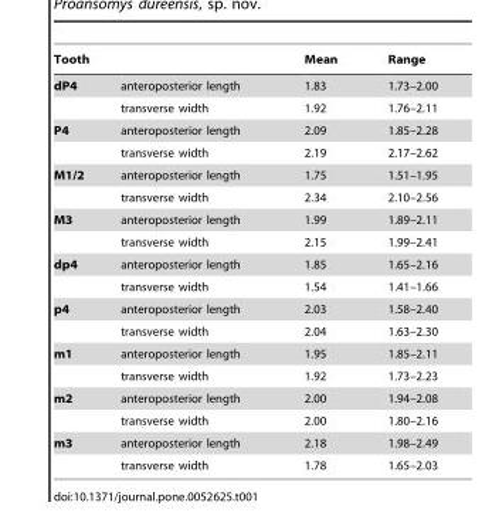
<table><thead><tr><td>Tooth</td><td></td><td>Mean</td><td>Range</td></tr></thead><tbody><tr><td rowspan="2">dP4</td><td>anteroposterior length</td><td>1.83</td><td>1.73–2.00</td></tr><tr><td>transverse width</td><td>1.92</td><td>1.76–2.11</td></tr><tr><td rowspan="2">P4</td><td>anteroposterior length</td><td>2.09</td><td>1.85–2.28</td></tr><tr><td>transverse width</td><td>2.19</td><td>2.17–2.62</td></tr><tr><td rowspan="2">M1/2</td><td>anteroposterior length</td><td>1.75</td><td>1.51–1.95</td></tr><tr><td>transverse width</td><td>2.34</td><td>2.10–2.56</td></tr><tr><td rowspan="2">M3</td><td>anteroposterior length</td><td>1.99</td><td>1.89–2.11</td></tr><tr><td>transverse width</td><td>2.15</td><td>1.99–2.41</td></tr><tr><td rowspan="2">dp4</td><td>anteroposterior length</td><td>1.85</td><td>1.65–2.16</td></tr><tr><td>transverse width</td><td>1.54</td><td>1.41–1.66</td></tr><tr><td rowspan="2">p4</td><td>anteroposterior length</td><td>2.03</td><td>1.58–2.40</td></tr><tr><td>transverse width</td><td>2.04</td><td>1.63–2.30</td></tr><tr><td rowspan="2">m1</td><td>anteroposterior length</td><td>1.95</td><td>1.85–2.11</td></tr><tr><td>transverse width</td><td>1.92</td><td>1.73–2.23</td></tr><tr><td rowspan="2">m2</td><td>anteroposterior length</td><td>2.00</td><td>1.94–2.08</td></tr><tr><td>transverse width</td><td>2.00</td><td>1.80–2.16</td></tr><tr><td rowspan="2">m3</td><td>anteroposterior length</td><td>2.18</td><td>1.98–2.49</td></tr><tr><td>transverse width</td><td>1.78</td><td>1.65–2.03</td></tr></tbody></table>